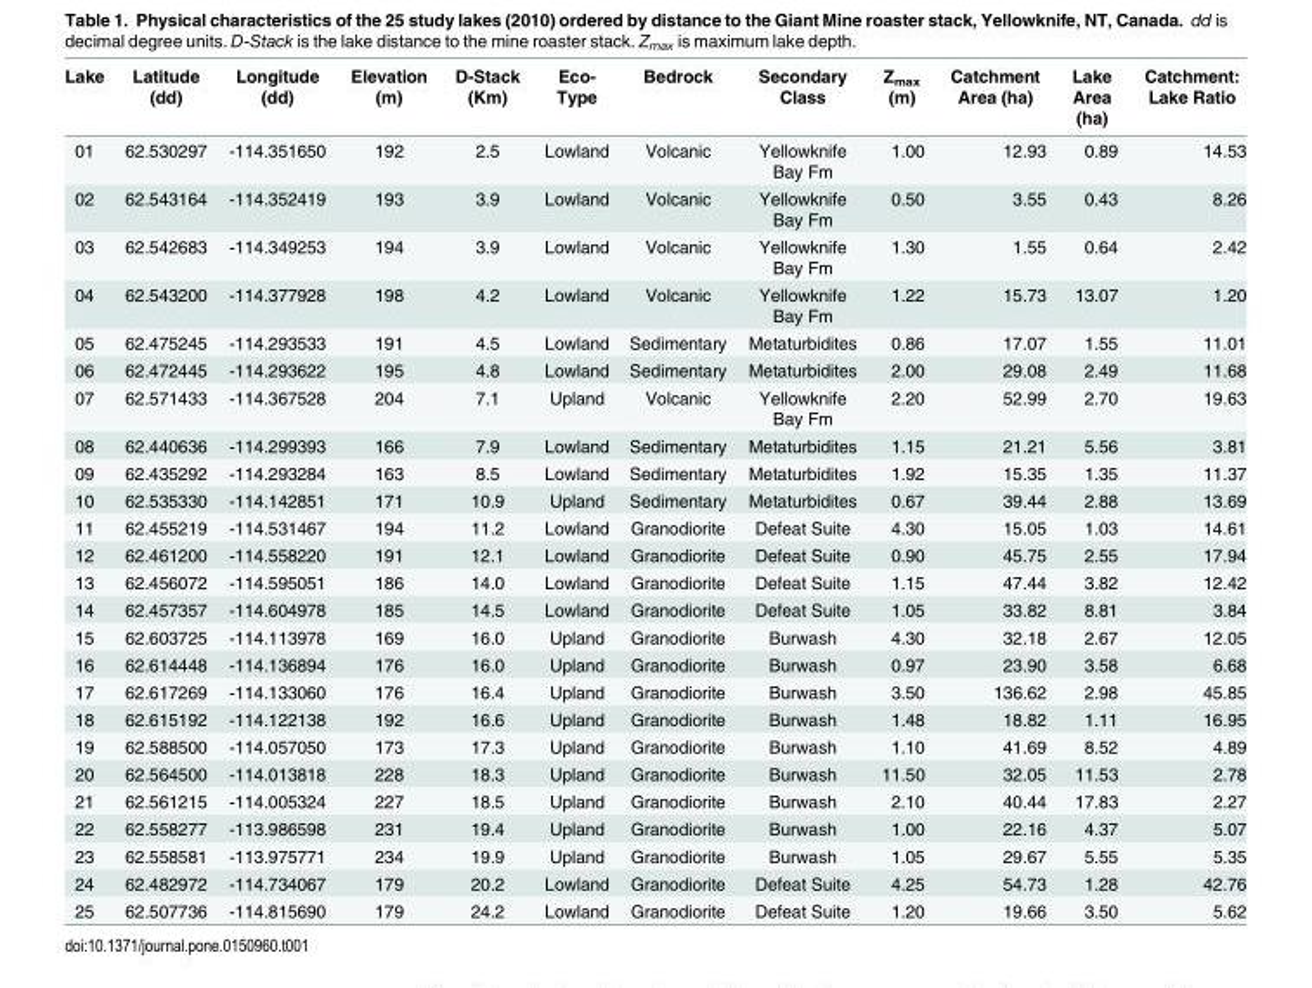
<table><thead><tr><td>Lake</td><td>Latitude (dd)</td><td>Longitude (dd)</td><td>Elevation (m)</td><td>D-Stack (Km)</td><td>Eco- Type</td><td>Bedrock</td><td>Secondary Class</td><td>Z<sub>max</sub> (m)</td><td>Catchment Area (ha)</td><td>Lake Area (ha)</td><td>Catchment: Lake Ratio</td></tr></thead><tbody><tr><td>01</td><td>62.530297</td><td>-114.351650</td><td>192</td><td>2.5</td><td>Lowland</td><td>Volcanic</td><td>Yellowknife Bay Fm</td><td>1.00</td><td>12.93</td><td>0.89</td><td>14.53</td></tr><tr><td>02</td><td>62.543164</td><td>-114.352419</td><td>193</td><td>3.9</td><td>Lowland</td><td>Volcanic</td><td>Yellowknife Bay Fm</td><td>0.50</td><td>3.55</td><td>0.43</td><td>8.26</td></tr><tr><td>03</td><td>62.542683</td><td>-114.349253</td><td>194</td><td>3.9</td><td>Lowland</td><td>Volcanic</td><td>Yellowknife Bay Fm</td><td>1.30</td><td>1.55</td><td>0.64</td><td>2.42</td></tr><tr><td>04</td><td>62.543200</td><td>-114.377928</td><td>198</td><td>4.2</td><td>Lowland</td><td>Volcanic</td><td>Yellowknife Bay Fm</td><td>1.22</td><td>15.73</td><td>13.07</td><td>1.20</td></tr><tr><td>05</td><td>62.475245</td><td>-114.293533</td><td>191</td><td>4.5</td><td>Lowland</td><td>Sedimentary</td><td>Metaturbidites</td><td>0.86</td><td>17.07</td><td>1.55</td><td>11.01</td></tr><tr><td>06</td><td>62.472445</td><td>-114.293622</td><td>195</td><td>4.8</td><td>Lowland</td><td>Sedimentary</td><td>Metaturbidites</td><td>2.00</td><td>29.08</td><td>2.49</td><td>11.68</td></tr><tr><td>07</td><td>62.571433</td><td>-114.367528</td><td>204</td><td>7.1</td><td>Upland</td><td>Volcanic</td><td>Yellowknife Bay Fm</td><td>2.20</td><td>52.99</td><td>2.70</td><td>19.63</td></tr><tr><td>08</td><td>62.440636</td><td>-114.299393</td><td>166</td><td>7.9</td><td>Lowland</td><td>Sedimentary</td><td>Metaturbidites</td><td>1.15</td><td>21.21</td><td>5.56</td><td>3.81</td></tr><tr><td>09</td><td>62.435292</td><td>-114.293284</td><td>163</td><td>8.5</td><td>Lowland</td><td>Sedimentary</td><td>Metaturbidites</td><td>1.92</td><td>15.35</td><td>1.35</td><td>11.37</td></tr><tr><td>10</td><td>62.535330</td><td>-114.142851</td><td>171</td><td>10.9</td><td>Upland</td><td>Sedimentary</td><td>Metaturbidites</td><td>0.67</td><td>39.44</td><td>2.88</td><td>13.69</td></tr><tr><td>11</td><td>62.455219</td><td>-114.531467</td><td>194</td><td>11.2</td><td>Lowland</td><td>Granodiorite</td><td>Defeat Suite</td><td>4.30</td><td>15.05</td><td>1.03</td><td>14.61</td></tr><tr><td>12</td><td>62.461200</td><td>-114.558220</td><td>191</td><td>12.1</td><td>Lowland</td><td>Granodiorite</td><td>Defeat Suite</td><td>0.90</td><td>45.75</td><td>2.55</td><td>17.94</td></tr><tr><td>13</td><td>62.456072</td><td>-114.595051</td><td>186</td><td>14.0</td><td>Lowland</td><td>Granodiorite</td><td>Defeat Suite</td><td>1.15</td><td>47.44</td><td>3.82</td><td>12.42</td></tr><tr><td>14</td><td>62.457357</td><td>-114.604978</td><td>185</td><td>14.5</td><td>Lowland</td><td>Granodiorite</td><td>Defeat Suite</td><td>1.05</td><td>33.82</td><td>8.81</td><td>3.84</td></tr><tr><td>15</td><td>62.603725</td><td>-114.113978</td><td>169</td><td>16.0</td><td>Upland</td><td>Granodiorite</td><td>Burwash</td><td>4.30</td><td>32.18</td><td>2.67</td><td>12.05</td></tr><tr><td>16</td><td>62.614448</td><td>-114.136894</td><td>176</td><td>16.0</td><td>Upland</td><td>Granodiorite</td><td>Burwash</td><td>0.97</td><td>23.90</td><td>3.58</td><td>6.68</td></tr><tr><td>17</td><td>62.617269</td><td>-114.133060</td><td>176</td><td>16.4</td><td>Upland</td><td>Granodiorite</td><td>Burwash</td><td>3.50</td><td>136.62</td><td>2.98</td><td>45.85</td></tr><tr><td>18</td><td>62.615192</td><td>-114.122138</td><td>192</td><td>16.6</td><td>Upland</td><td>Granodiorite</td><td>Burwash</td><td>1.48</td><td>18.82</td><td>1.11</td><td>16.95</td></tr><tr><td>19</td><td>62.588500</td><td>-114.057050</td><td>173</td><td>17.3</td><td>Upland</td><td>Granodiorite</td><td>Burwash</td><td>1.10</td><td>41.69</td><td>8.52</td><td>4.89</td></tr><tr><td>20</td><td>62.564500</td><td>-114.013818</td><td>228</td><td>18.3</td><td>Upland</td><td>Granodiorite</td><td>Burwash</td><td>11.50</td><td>32.05</td><td>11.53</td><td>2.78</td></tr><tr><td>21</td><td>62.561215</td><td>-114.005324</td><td>227</td><td>18.5</td><td>Upland</td><td>Granodiorite</td><td>Burwash</td><td>2.10</td><td>40.44</td><td>17.83</td><td>2.27</td></tr><tr><td>22</td><td>62.558277</td><td>-113.986598</td><td>231</td><td>19.4</td><td>Upland</td><td>Granodiorite</td><td>Burwash</td><td>1.00</td><td>22.16</td><td>4.37</td><td>5.07</td></tr><tr><td>23</td><td>62.558581</td><td>-113.975771</td><td>234</td><td>19.9</td><td>Upland</td><td>Granodiorite</td><td>Burwash</td><td>1.05</td><td>29.67</td><td>5.55</td><td>5.35</td></tr><tr><td>24</td><td>62.482972</td><td>-114.734067</td><td>179</td><td>20.2</td><td>Lowland</td><td>Granodiorite</td><td>Defeat Suite</td><td>4.25</td><td>54.73</td><td>1.28</td><td>42.76</td></tr><tr><td>25</td><td>62.507736</td><td>-114.815690</td><td>179</td><td>24.2</td><td>Lowland</td><td>Granodiorite</td><td>Defeat Suite</td><td>1.20</td><td>19.66</td><td>3.50</td><td>5.62</td></tr></tbody></table>